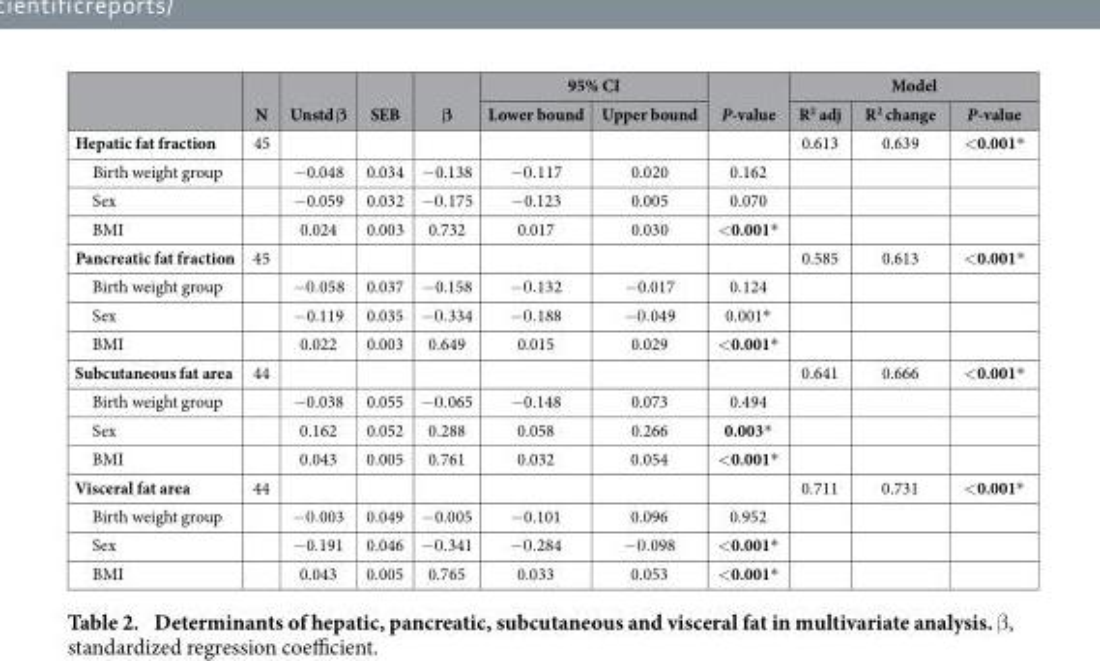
<table><thead><tr><td rowspan="2"></td><td rowspan="2">N</td><td rowspan="2">Unstd β</td><td rowspan="2">SEB</td><td rowspan="2">β</td><td colspan="2">95% CI</td><td rowspan="2">P-value</td><td colspan="3">Model</td></tr><tr><td>Lower bound</td><td>Upper bound</td><td>R<sup>2</sup> adj</td><td>R<sup>2</sup> change</td><td>P-value</td></tr></thead><tbody><tr><td>Hepatic fat fraction</td><td>45</td><td></td><td></td><td></td><td></td><td></td><td></td><td>0.613</td><td>0.639</td><td>&lt; 0.001*</td></tr><tr><td>Birth weight group</td><td></td><td>− 0.048</td><td>0.034</td><td>− 0.138</td><td>−0. 117</td><td>0.020</td><td>0.162</td><td></td><td></td><td></td></tr><tr><td>Sex</td><td></td><td>− 0.059</td><td>0.032</td><td>−0. 175</td><td>− 0.123</td><td>0.005</td><td>0.070</td><td></td><td></td><td></td></tr><tr><td>BMI</td><td></td><td>0.024</td><td>0.003</td><td>0.732</td><td>0.017</td><td>0.030</td><td>&lt; 0.001 *</td><td></td><td></td><td></td></tr><tr><td>Pancreatic fat fraction</td><td>45</td><td></td><td></td><td></td><td></td><td></td><td></td><td>0.585</td><td>0.613</td><td>&lt; 0.001*</td></tr><tr><td>Birth weight group</td><td></td><td>−0. 058</td><td>0.037</td><td>− 0.158</td><td>−0. 132</td><td>− 0.017</td><td>0.124</td><td></td><td></td><td></td></tr><tr><td>Sex</td><td></td><td>− 0.119</td><td>0.035</td><td>−0. 334</td><td>−0. 188</td><td>−0. 049</td><td>0.001*</td><td></td><td></td><td></td></tr><tr><td>BMI</td><td></td><td>0.022</td><td>0.003</td><td>0.649</td><td>0.015</td><td>0.029</td><td>&lt; 0.001*</td><td></td><td></td><td></td></tr><tr><td>Subcutaneous fat area</td><td>44</td><td></td><td></td><td></td><td></td><td></td><td></td><td>0.641</td><td>0.666</td><td>&lt; 0.001*</td></tr><tr><td>Birth weight group</td><td></td><td>− 0.038</td><td>0.055</td><td>−0. 065</td><td>− 0.148</td><td>0.073</td><td>0.494</td><td></td><td></td><td></td></tr><tr><td>Sex</td><td></td><td>0.162</td><td>0.052</td><td>0.288</td><td>0.058</td><td>0.266</td><td>0.003*</td><td></td><td></td><td></td></tr><tr><td>BMI</td><td></td><td>0.043</td><td>0.005</td><td>0.761</td><td>0.032</td><td>0.054</td><td>&lt; 0.001*</td><td></td><td></td><td></td></tr><tr><td>Visceral fat area</td><td>44</td><td></td><td></td><td></td><td></td><td></td><td></td><td>0.711</td><td>0.731</td><td>&lt; 0.001*</td></tr><tr><td>Birth weight group</td><td></td><td>−0. 003</td><td>0.049</td><td>− 0.005</td><td>− 0.101</td><td>0.096</td><td>0.952</td><td></td><td></td><td></td></tr><tr><td>Sex</td><td></td><td>− 0.191</td><td>0.046</td><td>−0. 341</td><td>−0. 284</td><td>−0. 098</td><td>&lt; 0.001*</td><td></td><td></td><td></td></tr><tr><td>BMI</td><td></td><td>0.043</td><td>0.005</td><td>0.765</td><td>0.033</td><td>0.053</td><td>&lt; 0.001*</td><td></td><td></td><td></td></tr></tbody></table>